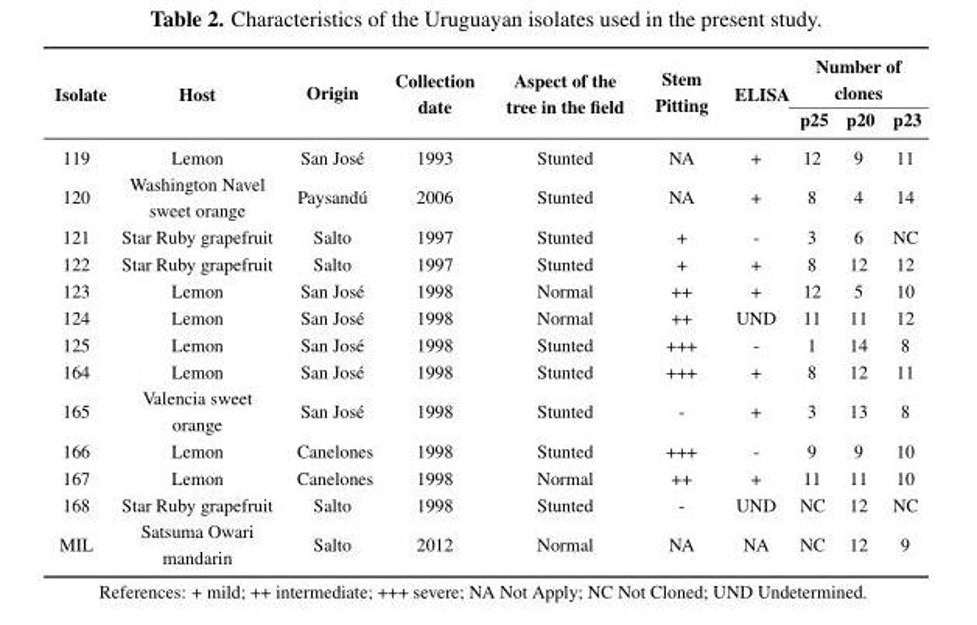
<table><thead><tr><td rowspan="2">Isolate</td><td rowspan="2">Host</td><td rowspan="2">Origin</td><td rowspan="2">Collection date</td><td rowspan="2">Aspect of the tree in the field</td><td rowspan="2">Stem Pitting</td><td rowspan="2">ELISA</td><td colspan="3">Number of clones</td></tr><tr><td>p25</td><td>p20</td><td>p23</td></tr></thead><tbody><tr><td>119</td><td>Lemon</td><td>San José</td><td>1993</td><td>Stunted</td><td>NA</td><td>+</td><td>12</td><td>9</td><td>11</td></tr><tr><td>120</td><td>Washington Navel sweet orange</td><td>Paysandú</td><td>2006</td><td>Stunted</td><td>NA</td><td>+</td><td>8</td><td>4</td><td>14</td></tr><tr><td>121</td><td>Star Ruby grapefruit</td><td>Salto</td><td>1997</td><td>Stunted</td><td>+</td><td>-</td><td>3</td><td>6</td><td>NC</td></tr><tr><td>122</td><td>Star Ruby grapefruit</td><td>Salto</td><td>1997</td><td>Stunted</td><td>+</td><td>+</td><td>8</td><td>12</td><td>12</td></tr><tr><td>123</td><td>Lemon</td><td>San José</td><td>1998</td><td>Normal</td><td>++</td><td>+</td><td>12</td><td>5</td><td>10</td></tr><tr><td>124</td><td>Lemon</td><td>San José</td><td>1998</td><td>Normal</td><td>++</td><td>UND</td><td>11</td><td>11</td><td>12</td></tr><tr><td>125</td><td>Lemon</td><td>San José</td><td>1998</td><td>Stunted</td><td>+++</td><td>-</td><td>1</td><td>14</td><td>8</td></tr><tr><td>164</td><td>Lemon</td><td>San José</td><td>1998</td><td>Stunted</td><td>+++</td><td>+</td><td>8</td><td>12</td><td>11</td></tr><tr><td>165</td><td>Valencia sweet orange</td><td>San José</td><td>1998</td><td>Stunted</td><td>-</td><td>+</td><td>3</td><td>13</td><td>8</td></tr><tr><td>166</td><td>Lemon</td><td>Canelones</td><td>1998</td><td>Stunted</td><td>+++</td><td>-</td><td>9</td><td>9</td><td>10</td></tr><tr><td>167</td><td>Lemon</td><td>Canelones</td><td>1998</td><td>Normal</td><td>++</td><td>+</td><td>11</td><td>11</td><td>10</td></tr><tr><td>168</td><td>Star Ruby grapefruit</td><td>Salto</td><td>1998</td><td>Stunted</td><td>-</td><td>UND</td><td>NC</td><td>12</td><td>NC</td></tr><tr><td>MIL</td><td>Satsuma Owari mandarin</td><td>Salto</td><td>2012</td><td>Normal</td><td>NA</td><td>NA</td><td>NC</td><td>12</td><td>9</td></tr></tbody></table>